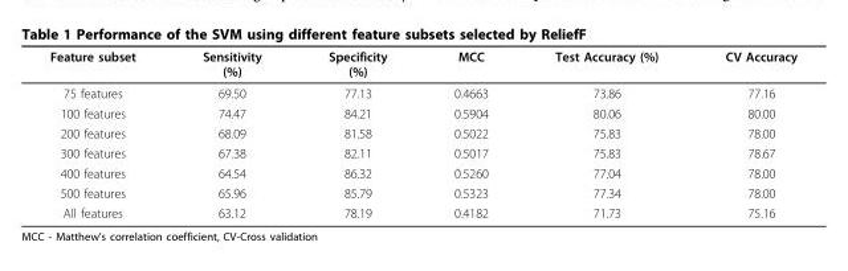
<table><thead><tr><td>Feature subset</td><td>Sensitivity (%)</td><td>Specificity (%)</td><td>MCC</td><td>Test Accuracy (%)</td><td>CV Accuracy</td></tr></thead><tbody><tr><td>75 features</td><td>69.50</td><td>77.13</td><td>0.4663</td><td>73.86</td><td>77.16</td></tr><tr><td>100 features</td><td>74.47</td><td>84.21</td><td>0.5904</td><td>80.06</td><td>80.00</td></tr><tr><td>200 features</td><td>68.09</td><td>81.58</td><td>0.5022</td><td>75.83</td><td>78.00</td></tr><tr><td>300 features</td><td>67.38</td><td>82.11</td><td>0.5017</td><td>75.83</td><td>78.67</td></tr><tr><td>400 features</td><td>64.54</td><td>86.32</td><td>0.5260</td><td>77.04</td><td>78.00</td></tr><tr><td>500 features</td><td>65.96</td><td>85.79</td><td>0.5323</td><td>77.34</td><td>78.00</td></tr><tr><td>All features</td><td>63.12</td><td>78.19</td><td>0.4182</td><td>71.73</td><td>75.16</td></tr></tbody></table>